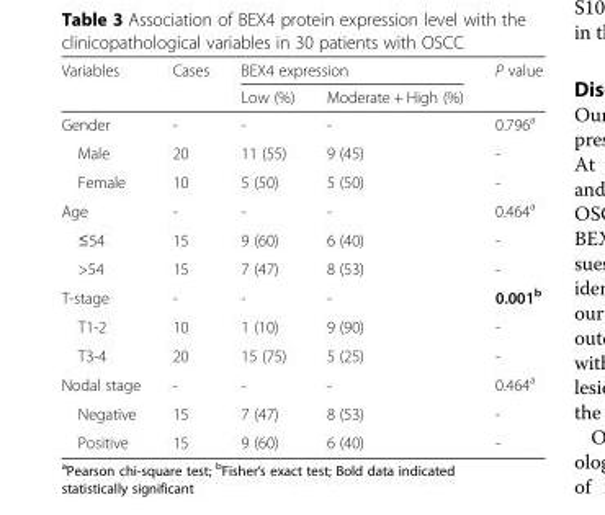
<table><thead><tr><td rowspan="2">Variables</td><td rowspan="2">Cases</td><td colspan="2">BEX4 expression</td><td rowspan="2">P value</td></tr><tr><td>Low (%)</td><td>Moderate + High (%)</td></tr></thead><tbody><tr><td>Gender</td><td>-</td><td>-</td><td>-</td><td>0.796<sup>a</sup></td></tr><tr><td>Male</td><td>20</td><td>11 (55)</td><td>9 (45)</td><td>-</td></tr><tr><td>Female</td><td>10</td><td>5 (50)</td><td>5 (50)</td><td>-</td></tr><tr><td>Age</td><td>-</td><td>-</td><td>-</td><td>0.464<sup>a</sup></td></tr><tr><td>≤54</td><td>15</td><td>9 (60)</td><td>6 (40)</td><td>-</td></tr><tr><td>&gt;54</td><td>15</td><td>7 (47)</td><td>8 (53)</td><td>-</td></tr><tr><td>T-stage</td><td>-</td><td>-</td><td>-</td><td>0.001<sup>b</sup></td></tr><tr><td>T1-2</td><td>10</td><td>1 (10)</td><td>9 (90)</td><td>-</td></tr><tr><td>T3-4</td><td>20</td><td>15 (75)</td><td>5 (25)</td><td>-</td></tr><tr><td>Nodal stage</td><td>-</td><td>-</td><td>-</td><td>0.464<sup>a</sup></td></tr><tr><td>Negative</td><td>15</td><td>7 (47)</td><td>8 (53)</td><td>-</td></tr><tr><td>Positive</td><td>15</td><td>9 (60)</td><td>6 (40)</td><td>-</td></tr></tbody></table>